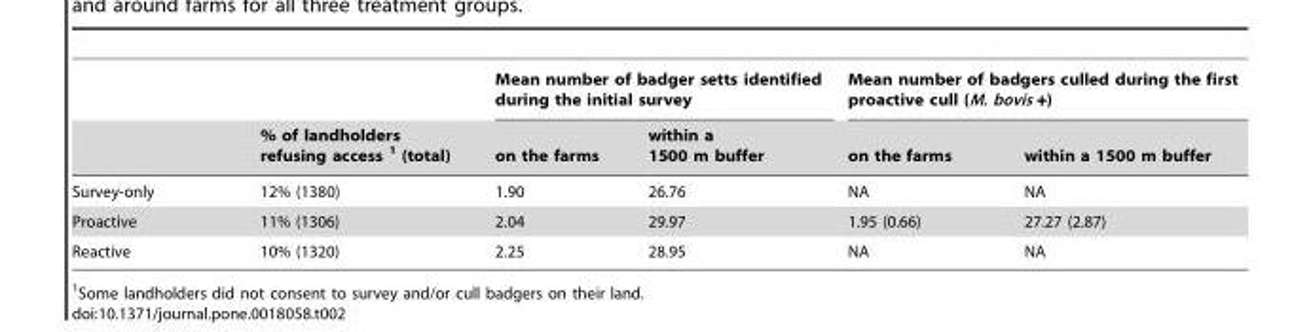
<table><thead><tr><td rowspan="2"></td><td rowspan="2">% of landholders refusing access 1 (total)</td><td colspan="2">Mean number of badger setts identified during the initial survey</td><td colspan="2">Mean number of badgers culled during the first proactive cull (M. bovis +)</td></tr><tr><td>on the farms</td><td>within a 1500 m buffer</td><td>on the farms</td><td>within a 1500 m buffer</td></tr></thead><tbody><tr><td>Survey-only</td><td>12% (1380)</td><td>1.90</td><td>26.76</td><td>NA</td><td>NA</td></tr><tr><td>Proactive</td><td>11% (1306)</td><td>2.04</td><td>29.97</td><td>1.95 (0.66)</td><td>27.27 (2.87)</td></tr><tr><td>Reactive</td><td>10% (1320)</td><td>2.25</td><td>28.95</td><td>NA</td><td>NA</td></tr></tbody></table>